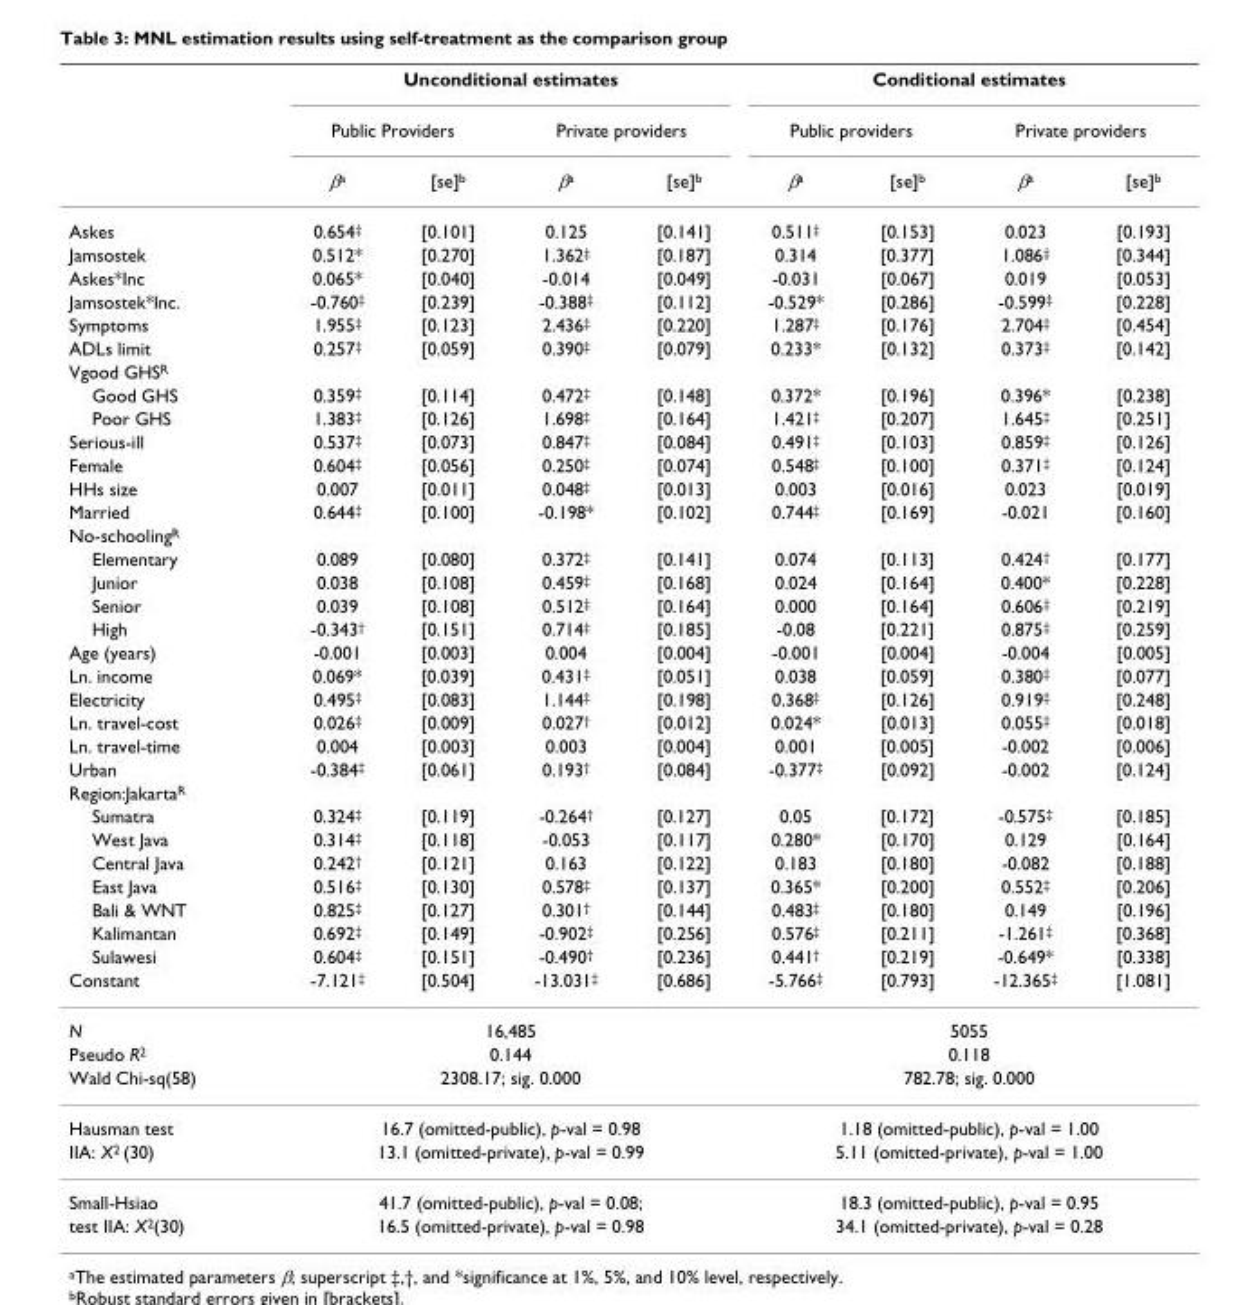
<table><thead><tr><td rowspan="3"></td><td colspan="4">Unconditional estimates</td><td colspan="4">Conditional estimates</td></tr><tr><td colspan="2">Public Providers</td><td colspan="2">Private providers</td><td colspan="2">Public providers</td><td colspan="2">Private providers</td></tr><tr><td>β<sup>a</sup></td><td>[se]<sup>b</sup></td><td>β<sup>a</sup></td><td>[se]<sup>b</sup></td><td>β<sup>a</sup></td><td>[se]<sup>b</sup></td><td>β<sup>a</sup></td><td>[se]<sup>b</sup></td></tr></thead><tbody><tr><td>Askes</td><td>0.654<sup>‡</sup></td><td>[0.101]</td><td>0.125</td><td>[0.141]</td><td>0.511<sup>‡</sup></td><td>[0.153]</td><td>0.023</td><td>[0.193]</td></tr><tr><td>Jamsostek</td><td>0.512*</td><td>[0.270]</td><td>1.362<sup>‡</sup></td><td>[0.187]</td><td>0.314</td><td>[0.377]</td><td>1.086<sup>‡</sup></td><td>[0.344]</td></tr><tr><td>Askes*Inc</td><td>0.065*</td><td>[0.040]</td><td>-0.014</td><td>[0.049]</td><td>-0.031</td><td>[0.067]</td><td>0.019</td><td>[0.053]</td></tr><tr><td>Jamsostek*Inc.</td><td>-0.760<sup>‡</sup></td><td>[0.239]</td><td>-0.388<sup>‡</sup></td><td>[0.112]</td><td>-0.529*</td><td>[0.286]</td><td>-0.599<sup>‡</sup></td><td>[0.228]</td></tr><tr><td>Symptoms</td><td>1.955<sup>‡</sup></td><td>[0.123]</td><td>2.436<sup>‡</sup></td><td>[0.220]</td><td>1.287<sup>‡</sup></td><td>[0.176]</td><td>2.704<sup>‡</sup></td><td>[0.454]</td></tr><tr><td>ADLs limit</td><td>0.257<sup>‡</sup></td><td>[0.059]</td><td>0.390<sup>‡</sup></td><td>[0.079]</td><td>0.233*</td><td>[0.132]</td><td>0.373<sup>‡</sup></td><td>[0.142]</td></tr><tr><td colspan="9">Vgood GHS<sup>R</sup></td></tr><tr><td>Good GHS</td><td>0.359<sup>‡</sup></td><td>[0.114]</td><td>0.472<sup>‡</sup></td><td>[0.148]</td><td>0.372*</td><td>[0.196]</td><td>0.396*</td><td>[0.238]</td></tr><tr><td>Poor GHS</td><td>1.383<sup>‡</sup></td><td>[0.126]</td><td>1.698<sup>‡</sup></td><td>[0.164]</td><td>1.421<sup>‡</sup></td><td>[0.207]</td><td>1.645<sup>‡</sup></td><td>[0.251]</td></tr><tr><td>Serious-ill</td><td>0.537<sup>‡</sup></td><td>[0.073]</td><td>0.847<sup>‡</sup></td><td>[0.084]</td><td>0.491<sup>‡</sup></td><td>[0.103]</td><td>0.859<sup>‡</sup></td><td>[0.126]</td></tr><tr><td>Female</td><td>0.604<sup>‡</sup></td><td>[0.056]</td><td>0.250<sup>‡</sup></td><td>[0.074]</td><td>0.548<sup>‡</sup></td><td>[0.100]</td><td>0.371<sup>‡</sup></td><td>[0.124]</td></tr><tr><td>HHs size</td><td>0.007</td><td>[0.011]</td><td>0.048<sup>‡</sup></td><td>[0.013]</td><td>0.003</td><td>[0.016]</td><td>0.023</td><td>[0.019]</td></tr><tr><td>Married</td><td>0.644<sup>‡</sup></td><td>[0.100]</td><td>-0.198*</td><td>[0.102]</td><td>0.744<sup>‡</sup></td><td>[0.169]</td><td>-0.021</td><td>[0.160]</td></tr><tr><td colspan="9">No-schooling<sup>R</sup></td></tr><tr><td>Elementary</td><td>0.089</td><td>[0.080]</td><td>0.372<sup>‡</sup></td><td>[0.141]</td><td>0.074</td><td>[0.113]</td><td>0.424<sup>†</sup></td><td>[0.177]</td></tr><tr><td>Junior</td><td>0.038</td><td>[0.108]</td><td>0.459<sup>‡</sup></td><td>[0.168]</td><td>0.024</td><td>[0.164]</td><td>0.400*</td><td>[0.228]</td></tr><tr><td>Senior</td><td>0.039</td><td>[0.108]</td><td>0.512<sup>‡</sup></td><td>[0.164]</td><td>0.000</td><td>[0.164]</td><td>0.606<sup>‡</sup></td><td>[0.219]</td></tr><tr><td>High</td><td>-0.343<sup>†</sup></td><td>[0.151]</td><td>0.714<sup>‡</sup></td><td>[0.185]</td><td>-0.08</td><td>[0.221]</td><td>0.875<sup>‡</sup></td><td>[0.259]</td></tr><tr><td>Age (years)</td><td>-0.001</td><td>[0.003]</td><td>0.004</td><td>[0.004]</td><td>-0.001</td><td>[0.004]</td><td>-0.004</td><td>[0.005]</td></tr><tr><td>Ln. income</td><td>0.069*</td><td>[0.039]</td><td>0.431<sup>‡</sup></td><td>[0.051]</td><td>0.038</td><td>[0.059]</td><td>0.380<sup>‡</sup></td><td>[0.077]</td></tr><tr><td>Electricity</td><td>0.495<sup>‡</sup></td><td>[0.083]</td><td>1.144<sup>‡</sup></td><td>[0.198]</td><td>0.368<sup>‡</sup></td><td>[0.126]</td><td>0.919<sup>‡</sup></td><td>[0.248]</td></tr><tr><td>Ln. travel-cost</td><td>0.026<sup>‡</sup></td><td>[0.009]</td><td>0.027<sup>†</sup></td><td>[0.012]</td><td>0.024*</td><td>[0.013]</td><td>0.055<sup>‡</sup></td><td>[0.018]</td></tr><tr><td>Ln. travel-time</td><td>0.004</td><td>[0.003]</td><td>0.003</td><td>[0.004]</td><td>0.001</td><td>[0.005]</td><td>-0.002</td><td>[0.006]</td></tr><tr><td>Urban</td><td>-0.384<sup>‡</sup></td><td>[0.061]</td><td>0.193<sup>†</sup></td><td>[0.084]</td><td>-0.377<sup>‡</sup></td><td>[0.092]</td><td>-0.002</td><td>[0.124]</td></tr><tr><td colspan="9">Region:Jakarta<sup>R</sup></td></tr><tr><td>Sumatra</td><td>0.324<sup>‡</sup></td><td>[0.119]</td><td>-0.264<sup>†</sup></td><td>[0.127]</td><td>0.05</td><td>[0.172]</td><td>-0.575<sup>‡</sup></td><td>[0.185]</td></tr><tr><td>West Java</td><td>0.314<sup>‡</sup></td><td>[0.118]</td><td>-0.053</td><td>[0.117]</td><td>0.280*</td><td>[0.170]</td><td>0.129</td><td>[0.164]</td></tr><tr><td>Central Java</td><td>0.242<sup>†</sup></td><td>[0.121]</td><td>0.163</td><td>[0.122]</td><td>0.183</td><td>[0.180]</td><td>-0.082</td><td>[0.188]</td></tr><tr><td>East Java</td><td>0.516<sup>‡</sup></td><td>[0.130]</td><td>0.578<sup>‡</sup></td><td>[0.137]</td><td>0.365*</td><td>[0.200]</td><td>0.552<sup>‡</sup></td><td>[0.206]</td></tr><tr><td>Bali &amp; WNT</td><td>0.825<sup>‡</sup></td><td>[0.127]</td><td>0.301<sup>†</sup></td><td>[0.144]</td><td>0.483<sup>‡</sup></td><td>[0.180]</td><td>0.149</td><td>[0.196]</td></tr><tr><td>Kalimantan</td><td>0.692<sup>‡</sup></td><td>[0.149]</td><td>-0.902<sup>‡</sup></td><td>[0.256]</td><td>0.576<sup>‡</sup></td><td>[0.211]</td><td>-1.261<sup>‡</sup></td><td>[0.368]</td></tr><tr><td>Sulawesi</td><td>0.604<sup>‡</sup></td><td>[0.151]</td><td>-0.490<sup>†</sup></td><td>[0.236]</td><td>0.441<sup>†</sup></td><td>[0.219]</td><td>-0.649*</td><td>[0.338]</td></tr><tr><td>Constant</td><td>-7.121<sup>‡</sup></td><td>[0.504]</td><td>-13.031<sup>‡</sup></td><td>[0.686]</td><td>-5.766<sup>‡</sup></td><td>[0.793]</td><td>-12.365<sup>‡</sup></td><td>[1.081]</td></tr><tr><td>N</td><td colspan="4">16,485</td><td colspan="4">5055</td></tr><tr><td>Pseudo R<sup>2</sup></td><td colspan="4">0.144</td><td colspan="4">0.118</td></tr><tr><td>Wald Chi-sq(58)</td><td colspan="4">2308.17; sig. 0.000</td><td colspan="4">782.78; sig. 0.000</td></tr><tr><td>Hausman test</td><td colspan="4">16.7 (omitted-public), p-val = 0.98</td><td colspan="4">1.18 (omitted-public), p-val = 1.00</td></tr><tr><td>IIA: X<sup>2</sup> (30)</td><td colspan="4">13.1 (omitted-private), p-val = 0.99</td><td colspan="4">5.11 (omitted-private), p-val = 1.00</td></tr><tr><td>Small-Hsiao</td><td colspan="4">41.7 (omitted-public), p-val = 0.08;</td><td colspan="4">18.3 (omitted-public), p-val = 0.95</td></tr><tr><td>test IIA: X<sup>2</sup>(30)</td><td colspan="4">16.5 (omitted-private), p-val = 0.98</td><td colspan="4">34.1 (omitted-private), p-val = 0.28</td></tr></tbody></table>